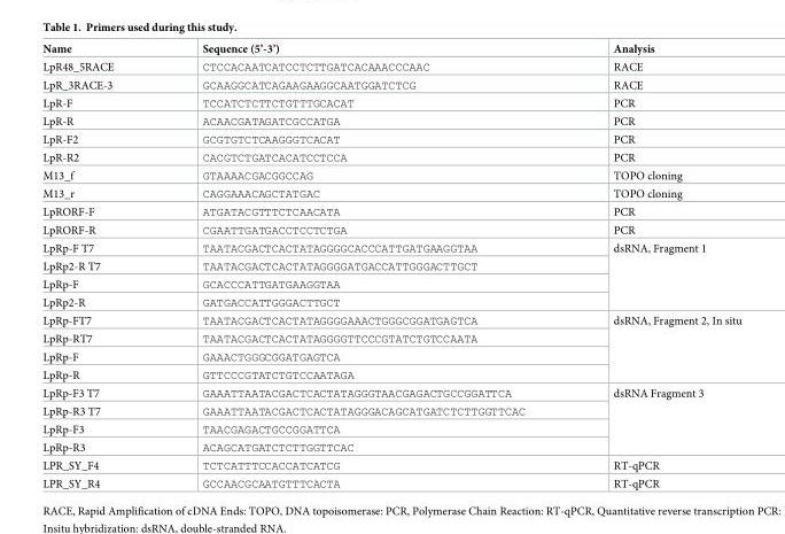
<table><tbody><tr><td>Name</td><td>Sequence (5’-3’)</td><td>Analysis</td></tr><tr><td>LpR48_5RACE</td><td>CTCCACAATCATCCTCTTGATCACAAACCCAAC</td><td>RACE</td></tr><tr><td>LpR_3RACE-3</td><td>GCAAGGCATCAGAAGAAGGCAATGGATCTCG</td><td>RACE</td></tr><tr><td>LpR-F</td><td>TCCATCTCTTCTGTTTGCACAT</td><td>PCR</td></tr><tr><td>LpR-R</td><td>ACAACGATAGATCGCCATGA</td><td>PCR</td></tr><tr><td>LpR-F2</td><td>GCGTGTCTCAAGGGTCACAT</td><td>PCR</td></tr><tr><td>LpR-R2</td><td>CACGTCTGATCACATCCTCCA</td><td>PCR</td></tr><tr><td>M13_f</td><td>GTAAAACGACGGCCAG</td><td>TOPO cloning</td></tr><tr><td>M13_r</td><td>CAGGAAACAGCTATGAC</td><td>TOPO cloning</td></tr><tr><td>LpRORF-F</td><td>ATGATACGTTTCTCAACATA</td><td>PCR</td></tr><tr><td>LpRORF-R</td><td>CGAATTGATGACCTCCTCTGA</td><td>PCR</td></tr><tr><td>LpRp-F T7</td><td>TAATACGACTCACTATAGGGGCACCCATTGATGAAGGTAA</td><td rowspan="4">dsRNA, Fragment 1</td></tr><tr><td>LpRp2-R T7</td><td>TAATACGACTCACTATAGGGGATGACCATTGGGACTTGCT</td></tr><tr><td>LpRp-F</td><td>GCACCCATTGATGAAGGTAA</td></tr><tr><td>LpRp2-R</td><td>GATGACCATTGGGACTTGCT</td></tr><tr><td>LpRp-FT7</td><td>TAATACGACTCACTATAGGGGAAACTGGGCGGATGAGTCA</td><td rowspan="4">dsRNA, Fragment 2, In situ</td></tr><tr><td>LpRp-RT7</td><td>TAATACGACTCACTATAGGGGTTCCCGTATCTGTCCAATA</td></tr><tr><td>LpRp-F</td><td>GAAACTGGGCGGATGAGTCA</td></tr><tr><td>LpRp-R</td><td>GTTCCCGTATCTGTCCAATAGA</td></tr><tr><td>LpRp-F3 T7</td><td>GAAATTAATACGACTCACTATAGGGTAACGAGACTGCCGGATTCA</td><td rowspan="4">dsRNA Fragment 3</td></tr><tr><td>LpRp-R3 T7</td><td>GAAATTAATACGACTCACTATAGGGACAGCATGATCTCTTGGTTCAC</td></tr><tr><td>LpRp-F3</td><td>TAACGAGACTGCCGGATTCA</td></tr><tr><td>LpRp-R3</td><td>ACAGCATGATCTCTTGGTTCAC</td></tr><tr><td>LPR_SY_F4</td><td>TCTCATTTCCACCATCATCG</td><td>RT-qPCR</td></tr><tr><td>LPR_SY_R4</td><td>GCCAACGCAATGTTTCACTA</td><td>RT-qPCR</td></tr></tbody></table>